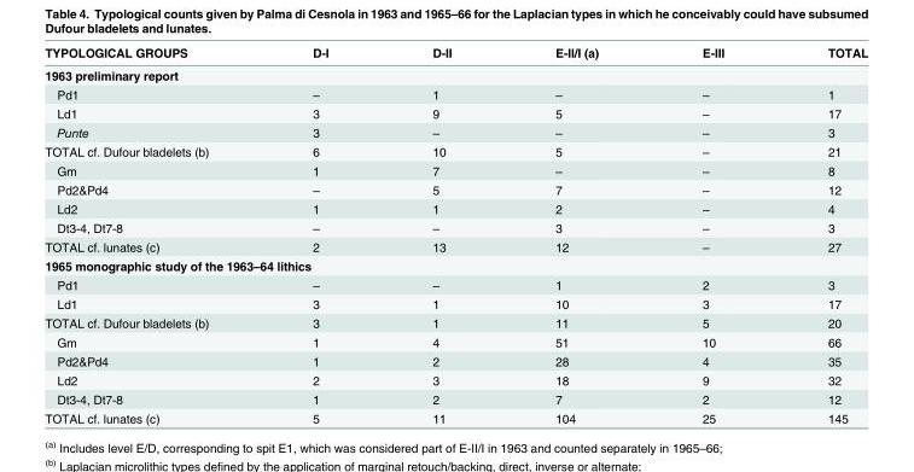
<table><thead><tr><td>TYPOLOGICAL GROUPS</td><td>D-I</td><td>D-II</td><td>E-II/I (a)</td><td>E-III</td><td>TOTAL</td></tr></thead><tbody><tr><td colspan="6">1963 preliminary report</td></tr><tr><td>Pd1</td><td>–</td><td>1</td><td>–</td><td>–</td><td>1</td></tr><tr><td>Ld1</td><td>3</td><td>9</td><td>5</td><td>–</td><td>17</td></tr><tr><td>Punte</td><td>3</td><td>–</td><td>–</td><td>–</td><td>3</td></tr><tr><td>TOTAL cf. Dufour bladelets (b)</td><td>6</td><td>10</td><td>5</td><td>–</td><td>21</td></tr><tr><td>Gm</td><td>1</td><td>7</td><td>–</td><td>–</td><td>8</td></tr><tr><td>Pd2&amp;Pd4</td><td>–</td><td>5</td><td>7</td><td>–</td><td>12</td></tr><tr><td>Ld2</td><td>1</td><td>1</td><td>2</td><td>–</td><td>4</td></tr><tr><td>Dt3-4, Dt7-8</td><td>–</td><td>–</td><td>3</td><td>–</td><td>3</td></tr><tr><td>TOTAL cf. lunates (c)</td><td>2</td><td>13</td><td>12</td><td>–</td><td>27</td></tr><tr><td colspan="6">1965 monographic study of the 1963–64 lithics</td></tr><tr><td>Pd1</td><td>–</td><td>–</td><td>1</td><td>2</td><td>3</td></tr><tr><td>Ld1</td><td>3</td><td>1</td><td>10</td><td>3</td><td>17</td></tr><tr><td>TOTAL cf. Dufour bladelets (b)</td><td>3</td><td>1</td><td>11</td><td>5</td><td>20</td></tr><tr><td>Gm</td><td>1</td><td>4</td><td>51</td><td>10</td><td>66</td></tr><tr><td>Pd2&amp;Pd4</td><td>1</td><td>2</td><td>28</td><td>4</td><td>35</td></tr><tr><td>Ld2</td><td>2</td><td>3</td><td>18</td><td>9</td><td>32</td></tr><tr><td>Dt3-4, Dt7-8</td><td>1</td><td>2</td><td>7</td><td>2</td><td>12</td></tr><tr><td>TOTAL cf. lunates (c)</td><td>5</td><td>11</td><td>104</td><td>25</td><td>145</td></tr></tbody></table>